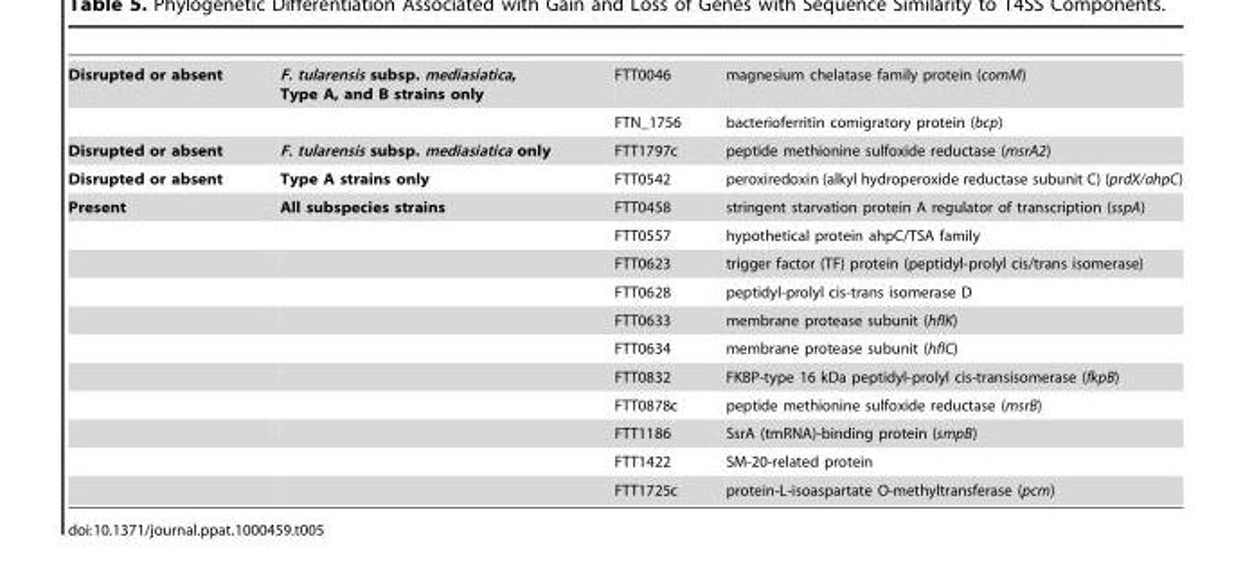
<table><tbody><tr><td rowspan="2">Disrupted or absent</td><td>F. tularensis subsp. mediasiatica, Type A, and B strains only</td><td>FTT0046</td><td>magnesium chelatase family protein (comM)</td></tr><tr><td></td><td>FTN_1756</td><td>bacterioferritin comigratory protein (bcp)</td></tr><tr><td>Disrupted or absent</td><td>F. tularensis subsp. mediasiatica only</td><td>FTT1797c</td><td>peptide methionine sulfoxide reductase (msrA2)</td></tr><tr><td>Disrupted or absent</td><td>Type A strains only</td><td>FTT0542</td><td>peroxiredoxin (alkyl hydroperoxide reductase subunit C) (prdX/ahpC)</td></tr><tr><td rowspan="11">Present</td><td>All subspecies strains</td><td>FTT0458</td><td>stringent starvation protein A regulator of transcription (sspA)</td></tr><tr><td></td><td>FTT0557</td><td>hypothetical protein ahpC/TSA family</td></tr><tr><td></td><td>FTT0623</td><td>trigger factor (TF) protein (peptidyl-prolyl cis/trans isomerase)</td></tr><tr><td></td><td>FTT0628</td><td>peptidyl-prolyl cis-trans isomerase D</td></tr><tr><td></td><td>FTT0633</td><td>membrane protease subunit (hflK)</td></tr><tr><td></td><td>FTT0634</td><td>membrane protease subunit (hflC)</td></tr><tr><td></td><td>FTT0832</td><td>FKBP-type 16 kDa peptidyl-prolyl cis-transisomerase (fkpB)</td></tr><tr><td></td><td>FTT0878c</td><td>peptide methionine sulfoxide reductase (msrB)</td></tr><tr><td></td><td>FTT1186</td><td>SsrA (tmRNA)-binding protein (smpB)</td></tr><tr><td></td><td>FTT1422</td><td>SM-20-related protein</td></tr><tr><td></td><td>FTT1725c</td><td>protein-L-isoaspartate O-methyltransferase (pcm)</td></tr></tbody></table>